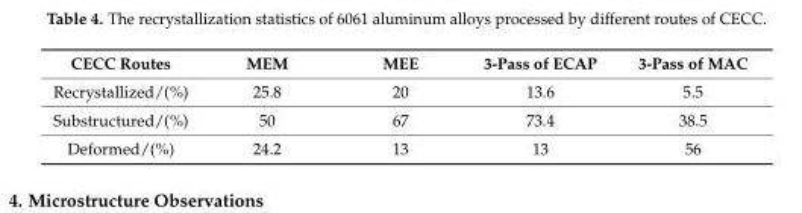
<table><thead><tr><td>CECC Routes</td><td>MEM</td><td>MEE</td><td>3-Pass of ECAP</td><td>3-Pass of MAC</td></tr></thead><tbody><tr><td>Recrystallized/(%)</td><td>25.8</td><td>20</td><td>13.6</td><td>5.5</td></tr><tr><td>Substructured/(%)</td><td>50</td><td>67</td><td>73.4</td><td>38.5</td></tr><tr><td>Deformed/(%)</td><td>24.2</td><td>13</td><td>13</td><td>56</td></tr></tbody></table>